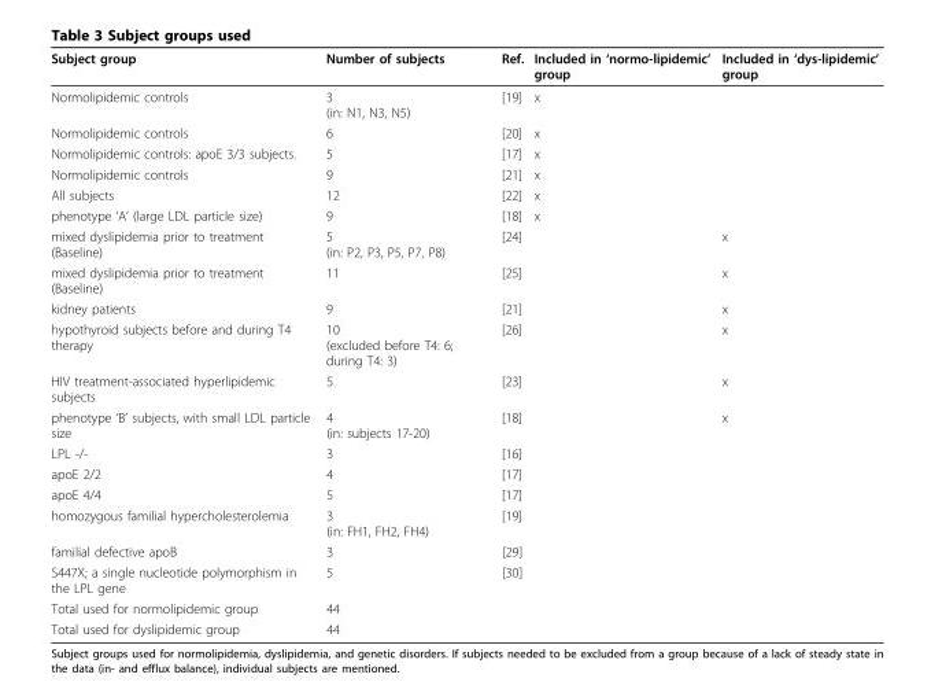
<table><thead><tr><td>Subject group</td><td>Number of subjects</td><td>Ref.</td><td>Included in ‘normo-lipidemic’ group</td><td>Included in ‘dys-lipidemic’ group</td></tr></thead><tbody><tr><td>Normolipidemic controls</td><td>3 (in: N1, N3, N5)</td><td>[19]</td><td>x</td><td></td></tr><tr><td>Normolipidemic controls</td><td>6</td><td>[20]</td><td>x</td><td></td></tr><tr><td>Normolipidemic controls: apoE 3/3 subjects.</td><td>5</td><td>[17]</td><td>x</td><td></td></tr><tr><td>Normolipidemic controls</td><td>9</td><td>[21]</td><td>x</td><td></td></tr><tr><td>All subjects</td><td>12</td><td>[22]</td><td>x</td><td></td></tr><tr><td>phenotype ‘A’ (large LDL particle size)</td><td>9</td><td>[18]</td><td>x</td><td></td></tr><tr><td>mixed dyslipidemia prior to treatment (Baseline)</td><td>5 (in: P2, P3, P5, P7, P8)</td><td>[24]</td><td></td><td>x</td></tr><tr><td>mixed dyslipidemia prior to treatment (Baseline)</td><td>11</td><td>[25]</td><td></td><td>x</td></tr><tr><td>kidney patients</td><td>9</td><td>[21]</td><td></td><td>x</td></tr><tr><td>hypothyroid subjects before and during T4 therapy</td><td>10 (excluded before T4: 6; during T4: 3)</td><td>[26]</td><td></td><td>x</td></tr><tr><td>HIV treatment-associated hyperlipidemic subjects</td><td>5</td><td>[23]</td><td></td><td>x</td></tr><tr><td>phenotype ‘B’ subjects, with small LDL particle size</td><td>4 (in: subjects 17-20)</td><td>[18]</td><td></td><td>x</td></tr><tr><td>LPL -/-</td><td>3</td><td>[16]</td><td></td><td></td></tr><tr><td>apoE 2/2</td><td>4</td><td>[17]</td><td></td><td></td></tr><tr><td>apoE 4/4</td><td>5</td><td>[17]</td><td></td><td></td></tr><tr><td>homozygous familial hypercholesterolemia</td><td>3 (in: FH1, FH2, FH4)</td><td>[19]</td><td></td><td></td></tr><tr><td>familial defective apoB</td><td>3</td><td>[29]</td><td></td><td></td></tr><tr><td>S447X; a single nucleotide polymorphism in the LPL gene</td><td>5</td><td>[30]</td><td></td><td></td></tr><tr><td>Total used for normolipidemic group</td><td>44</td><td></td><td></td><td></td></tr><tr><td>Total used for dyslipidemic group</td><td>44</td><td></td><td></td><td></td></tr></tbody></table>